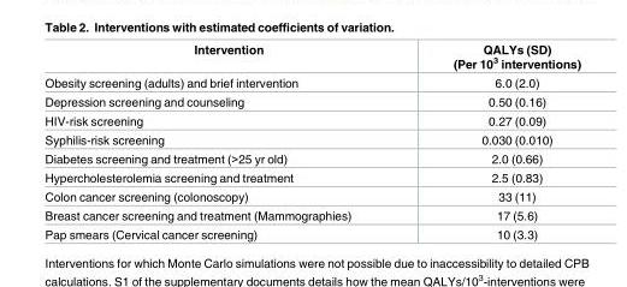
<table><thead><tr><td>Intervention</td><td>QALYs (SD) (Per 10<sup>3</sup> interventions)</td></tr></thead><tbody><tr><td>Obesity screening (adults) and brief intervention</td><td>6.0 (2.0)</td></tr><tr><td>Depression screening and counseling</td><td>0.50 (0.16)</td></tr><tr><td>HIV-risk screening</td><td>0.27 (0.09)</td></tr><tr><td>Syphilis-risk screening</td><td>0.030 (0.010)</td></tr><tr><td>Diabetes screening and treatment (&gt;25 yr old)</td><td>2.0 (0.66)</td></tr><tr><td>Hypercholesterolemia screening and treatment</td><td>2.5 (0.83)</td></tr><tr><td>Colon cancer screening (colonoscopy)</td><td>33 (11)</td></tr><tr><td>Breast cancer screening and treatment (Mammographies)</td><td>17 (5.6)</td></tr><tr><td>Pap smears (Cervical cancer screening)</td><td>10 (3.3)</td></tr></tbody></table>